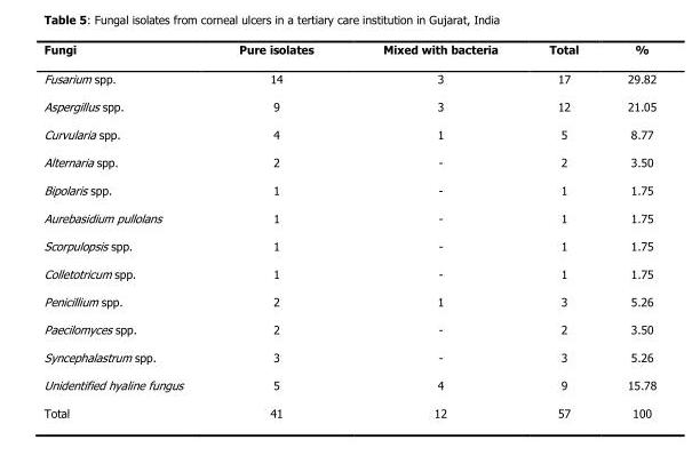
<table><thead><tr><td>Fungi</td><td>Pure isolates</td><td>Mixed with bacteria</td><td>Total</td><td>%</td></tr></thead><tbody><tr><td>Fusarium spp.</td><td>14</td><td>3</td><td>17</td><td>29.82</td></tr><tr><td>Aspergillus spp.</td><td>9</td><td>3</td><td>12</td><td>21.05</td></tr><tr><td>Curvularia spp.</td><td>4</td><td>1</td><td>5</td><td>8.77</td></tr><tr><td>Alternaria spp.</td><td>2</td><td>-</td><td>2</td><td>3.50</td></tr><tr><td>Bipolaris spp.</td><td>1</td><td>-</td><td>1</td><td>1.75</td></tr><tr><td>Aurebasidium pullolans</td><td>1</td><td>-</td><td>1</td><td>1.75</td></tr><tr><td>Scorpulopsis spp.</td><td>1</td><td>-</td><td>1</td><td>1.75</td></tr><tr><td>Colletotricum spp.</td><td>1</td><td>-</td><td>1</td><td>1.75</td></tr><tr><td>Penicillium spp.</td><td>2</td><td>1</td><td>3</td><td>5.26</td></tr><tr><td>Paecilomyces spp.</td><td>2</td><td>-</td><td>2</td><td>3.50</td></tr><tr><td>Syncephalastrum spp.</td><td>3</td><td>-</td><td>3</td><td>5.26</td></tr><tr><td>Unidentified hyaline fungus</td><td>5</td><td>4</td><td>9</td><td>15.78</td></tr><tr><td>Total</td><td>41</td><td>12</td><td>57</td><td>100</td></tr></tbody></table>